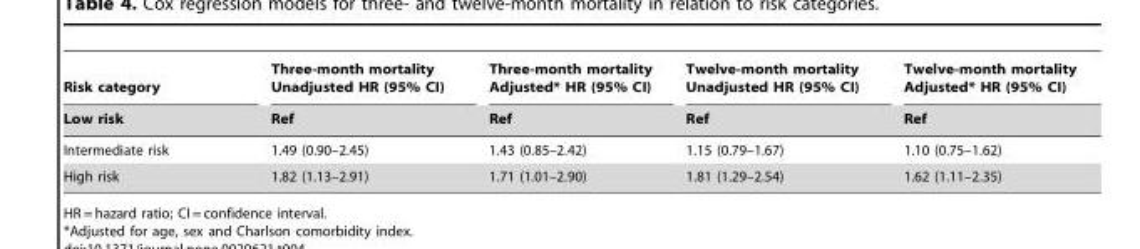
<table><thead><tr><td rowspan="2">Risk category Low risk</td><td rowspan="2">Three-month mortality Unadjusted HR (95% CI) Ref</td><td rowspan="2">Three-month mortality Adjusted* HR (95% CI) Ref</td><td rowspan="2">Twelve-month mortality Unadjusted HR (95% CI) Ref</td><td rowspan="2">Twelve-month mortality Adjusted* HR (95% CI) Ref</td></tr><tr></tr></thead><tbody><tr><td>Intermediate risk</td><td>1.49 (0.90–2.45)</td><td>1.43 (0.85–2.42)</td><td>1.15 (0.79–1.67)</td><td>1.10 (0.75–1.62)</td></tr><tr><td>High risk</td><td>1.82 (1.13–2.91)</td><td>1.71 (1.01–2.90)</td><td>1.81 (1.29–2.54)</td><td>1.62 (1.11–2.35)</td></tr></tbody></table>